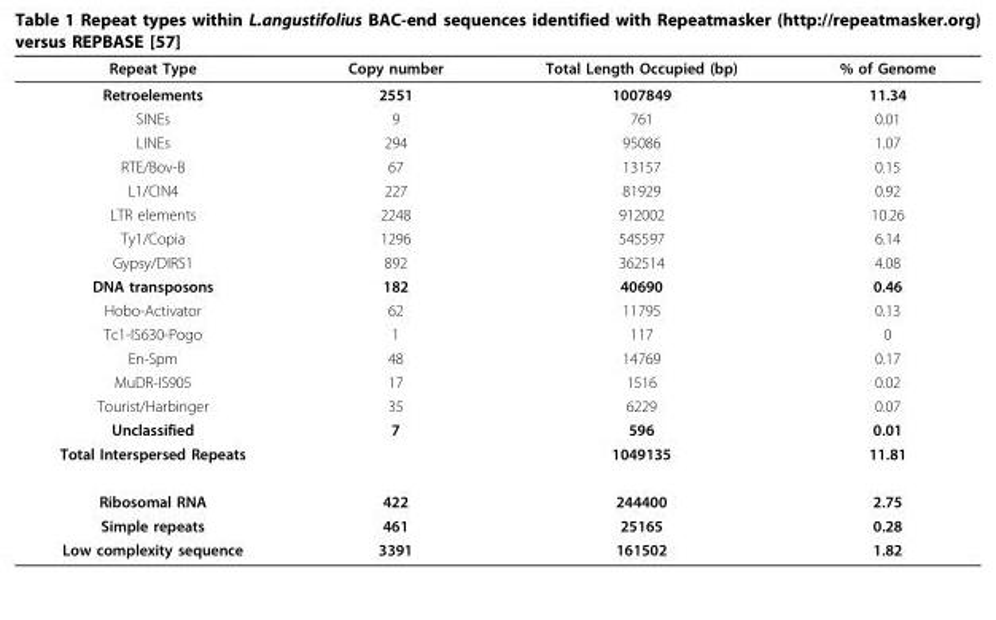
<table><thead><tr><td>Repeat Type</td><td>Copy number</td><td>Total Length Occupied (bp)</td><td>% of Genome</td></tr></thead><tbody><tr><td>Retroelements</td><td>2551</td><td>1007849</td><td>11.34</td></tr><tr><td>SINEs</td><td>9</td><td>761</td><td>0.01</td></tr><tr><td>LINEs</td><td>294</td><td>95086</td><td>1.07</td></tr><tr><td>RTE/Bov-B</td><td>67</td><td>13157</td><td>0.15</td></tr><tr><td>L1/CIN4</td><td>227</td><td>81929</td><td>0.92</td></tr><tr><td>LTR elements</td><td>2248</td><td>912002</td><td>10.26</td></tr><tr><td>Ty1/Copia</td><td>1296</td><td>545597</td><td>6.14</td></tr><tr><td>Gypsy/DIRS1</td><td>892</td><td>362514</td><td>4.08</td></tr><tr><td>DNA transposons</td><td>182</td><td>40690</td><td>0.46</td></tr><tr><td>Hobo-Activator</td><td>62</td><td>11795</td><td>0.13</td></tr><tr><td>Tc1-IS630-Pogo</td><td>1</td><td>117</td><td>0</td></tr><tr><td>En-Spm</td><td>48</td><td>14769</td><td>0.17</td></tr><tr><td>MuDR-IS905</td><td>17</td><td>1516</td><td>0.02</td></tr><tr><td>Tourist/Harbinger</td><td>35</td><td>6229</td><td>0.07</td></tr><tr><td>Unclassified</td><td>7</td><td>596</td><td>0.01</td></tr><tr><td>Total Interspersed Repeats</td><td></td><td>1049135</td><td>11.81</td></tr><tr><td>Ribosomal RNA</td><td>422</td><td>244400</td><td>2.75</td></tr><tr><td>Simple repeats</td><td>461</td><td>25165</td><td>0.28</td></tr><tr><td>Low complexity sequence</td><td>3391</td><td>161502</td><td>1.82</td></tr></tbody></table>